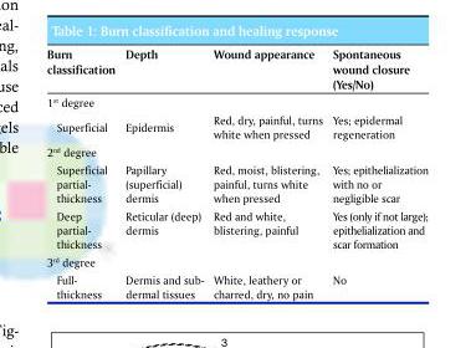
<table><thead><tr><td>Burn classification</td><td>Depth</td><td>Wound appearance</td><td>Spontaneous wound closure (Yes/No)</td></tr></thead><tbody><tr><td colspan="4">1<sup>st</sup> degree</td></tr><tr><td>Superficial</td><td>Epidermis</td><td>Red, dry, painful, turns white when pressed</td><td>Yes; epidermal regeneration</td></tr><tr><td colspan="4">2<sup>nd</sup> degree</td></tr><tr><td>Superficial partial- thickness</td><td>Papillary (superficial) dermis</td><td>Red, moist, blistering, painful, turns white when pressed</td><td>Yes; epithelialization with no or negligible scar</td></tr><tr><td>Deep partial- thickness</td><td>Reticular (deep) dermis</td><td>Red and white, blistering, painful</td><td>Yes (only if not large); epithelialization and scar formation</td></tr><tr><td colspan="4">3<sup>rd</sup> degree</td></tr><tr><td>Full- thickness</td><td>Dermis and sub- dermal tissues</td><td>White, leathery or charred, dry, no pain</td><td>No</td></tr></tbody></table>